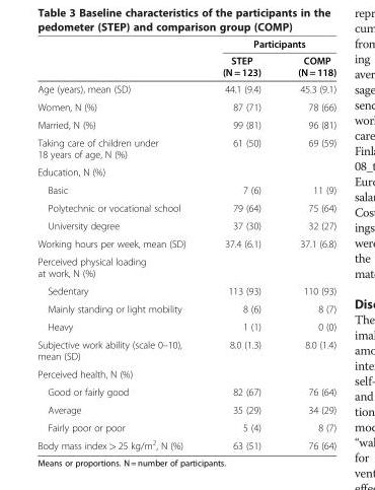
<table><thead><tr><td rowspan="2"></td><td colspan="2">Participants</td></tr><tr><td>STEP (N = 123)</td><td>COMP (N = 118)</td></tr></thead><tbody><tr><td>Age (years), mean (SD)</td><td>44.1 (9.4)</td><td>45.3 (9.1)</td></tr><tr><td>Women, N (%)</td><td>87 (71)</td><td>78 (66)</td></tr><tr><td>Married, N (%)</td><td>99 (81)</td><td>96 (81)</td></tr><tr><td>Taking care of children under 18 years of age, N (%)</td><td>61 (50)</td><td>69 (59)</td></tr><tr><td colspan="3">Education, N (%)</td></tr><tr><td>Basic</td><td>7 (6)</td><td>11 (9)</td></tr><tr><td>Polytechnic or vocational school</td><td>79 (64)</td><td>75 (64)</td></tr><tr><td>University degree</td><td>37 (30)</td><td>32 (27)</td></tr><tr><td>Working hours per week, mean (SD)</td><td>37.4 (6.1)</td><td>37.1 (6.8)</td></tr><tr><td colspan="3">Perceived physical loading at work, N (%)</td></tr><tr><td>Sedentary</td><td>113 (93)</td><td>110 (93)</td></tr><tr><td>Mainly standing or light mobility</td><td>8 (6)</td><td>8 (7)</td></tr><tr><td>Heavy</td><td>1 (1)</td><td>0 (0)</td></tr><tr><td>Subjective work ability (scale 0–10), mean (SD)</td><td>8.0 (1.3)</td><td>8.0 (1.4)</td></tr><tr><td colspan="3">Perceived health, N (%)</td></tr><tr><td>Good or fairly good</td><td>82 (67)</td><td>76 (64)</td></tr><tr><td>Average</td><td>35 (29)</td><td>34 (29)</td></tr><tr><td>Fairly poor or poor</td><td>5 (4)</td><td>8 (7)</td></tr><tr><td>Body mass index &gt; 25 kg/m<sup>2</sup>, N (%)</td><td>63 (51)</td><td>76 (64)</td></tr></tbody></table>